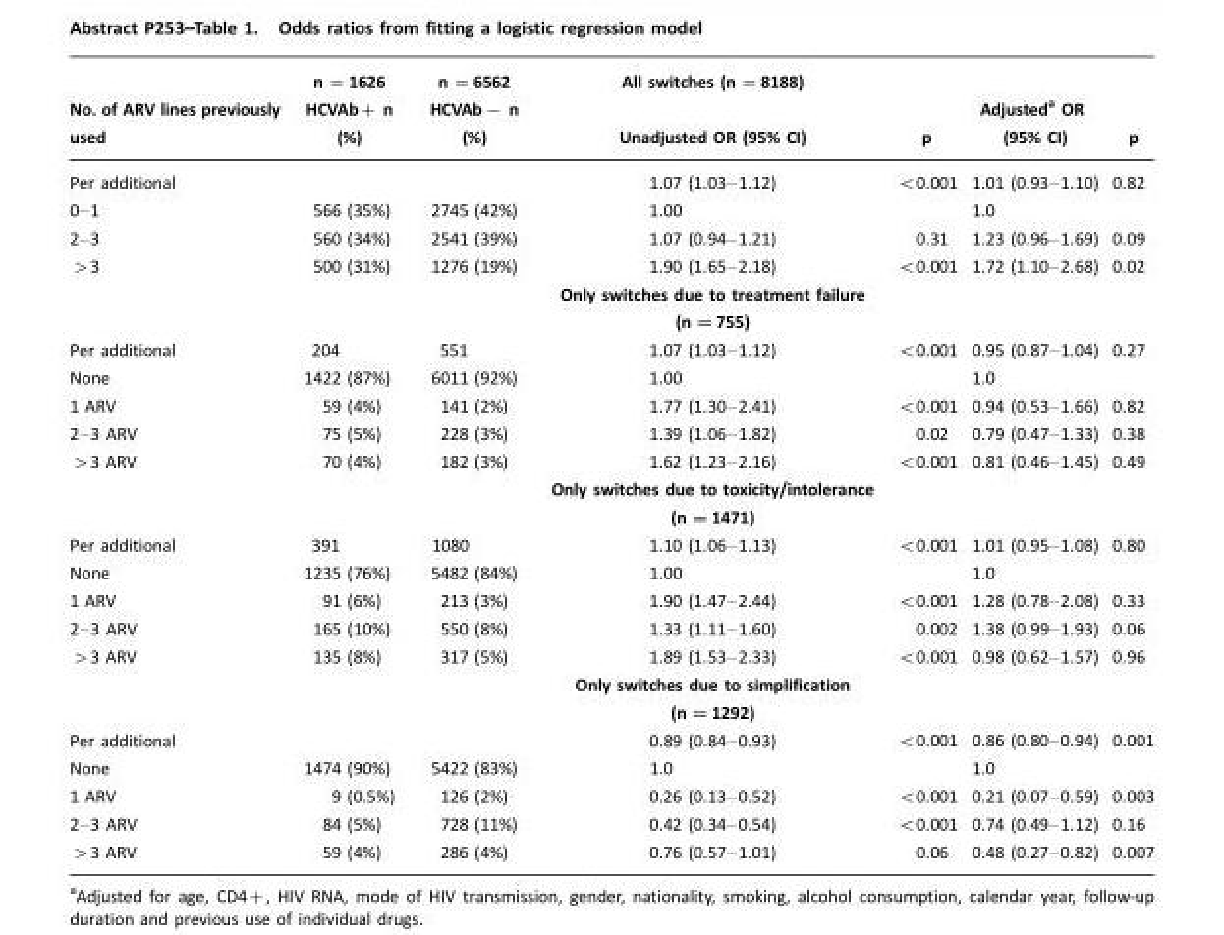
<table><thead><tr><td rowspan="2">No. of ARV lines previously used</td><td rowspan="2">n =1626 HCVAb+ n (%)</td><td rowspan="2">n =6562 HCVAb− n (%)</td><td rowspan="2">All switches (n =8188) Unadjusted OR (95% CI)</td><td rowspan="2">p</td><td rowspan="2">Adjusteda OR (95% CI)</td><td rowspan="2">p</td></tr><tr></tr></thead><tbody><tr><td>Per additional</td><td></td><td></td><td>1.07 (1.03–1.12)</td><td>&lt;0.001</td><td>1.01 (0.93–1.10)</td><td>0.82</td></tr><tr><td>0–1</td><td>566 (35%)</td><td>2745 (42%)</td><td>1.00</td><td></td><td>1.0</td><td></td></tr><tr><td>2–3</td><td>560 (34%)</td><td>2541 (39%)</td><td>1.07 (0.94–1.21)</td><td>0.31</td><td>1.23 (0.96–1.69)</td><td>0.09</td></tr><tr><td rowspan="2">&gt;3</td><td>500 (31%)</td><td>1276 (19%)</td><td>1.90 (1.65–2.18)</td><td>&lt;0.001</td><td>1.72 (1.10–2.68)</td><td>0.02</td></tr><tr><td></td><td></td><td>Only switches due to treatment failure (n =755)</td><td></td><td></td><td></td></tr><tr><td>Per additional</td><td>204</td><td>551</td><td>1.07 (1.03–1.12)</td><td>&lt;0.001</td><td>0.95 (0.87–1.04)</td><td>0.27</td></tr><tr><td>None</td><td>1422 (87%)</td><td>6011 (92%)</td><td>1.00</td><td></td><td>1.0</td><td></td></tr><tr><td>1 ARV</td><td>59 (4%)</td><td>141 (2%)</td><td>1.77 (1.30–2.41)</td><td>&lt;0.001</td><td>0.94 (0.53–1.66)</td><td>0.82</td></tr><tr><td>2–3 ARV</td><td>75 (5%)</td><td>228 (3%)</td><td>1.39 (1.06–1.82)</td><td>0.02</td><td>0.79 (0.47–1.33)</td><td>0.38</td></tr><tr><td rowspan="2">&gt;3 ARV</td><td>70 (4%)</td><td>182 (3%)</td><td>1.62 (1.23–2.16)</td><td>&lt;0.001</td><td>0.81 (0.46–1.45)</td><td>0.49</td></tr><tr><td></td><td></td><td>Only switches due to toxicity/intolerance (n =1471)</td><td></td><td></td><td></td></tr><tr><td>Per additional</td><td>391</td><td>1080</td><td>1.10 (1.06–1.13)</td><td>&lt;0.001</td><td>1.01 (0.95–1.08)</td><td>0.80</td></tr><tr><td>None</td><td>1235 (76%)</td><td>5482 (84%)</td><td>1.00</td><td></td><td>1.0</td><td></td></tr><tr><td>1 ARV</td><td>91 (6%)</td><td>213 (3%)</td><td>1.90 (1.47–2.44)</td><td>&lt;0.001</td><td>1.28 (0.78–2.08)</td><td>0.33</td></tr><tr><td>2–3 ARV</td><td>165 (10%)</td><td>550 (8%)</td><td>1.33 (1.11–1.60)</td><td>0.002</td><td>1.38 (0.99–1.93)</td><td>0.06</td></tr><tr><td rowspan="2">&gt;3 ARV</td><td>135 (8%)</td><td>317 (5%)</td><td>1.89 (1.53–2.33)</td><td>&lt;0.001</td><td>0.98 (0.62–1.57)</td><td>0.96</td></tr><tr><td></td><td></td><td>Only switches due to simplification (n =1292)</td><td></td><td></td><td></td></tr><tr><td>Per additional</td><td></td><td></td><td>0.89 (0.84–0.93)</td><td>&lt;0.001</td><td>0.86 (0.80–0.94)</td><td>0.001</td></tr><tr><td>None</td><td>1474 (90%)</td><td>5422 (83%)</td><td>1.0</td><td></td><td>1.0</td><td></td></tr><tr><td>1 ARV</td><td>9 (0.5%)</td><td>126 (2%)</td><td>0.26 (0.13–0.52)</td><td>&lt;0.001</td><td>0.21 (0.07–0.59)</td><td>0.003</td></tr><tr><td>2–3 ARV</td><td>84 (5%)</td><td>728 (11%)</td><td>0.42 (0.34–0.54)</td><td>&lt;0.001</td><td>0.74 (0.49–1.12)</td><td>0.16</td></tr><tr><td>&gt;3 ARV</td><td>59 (4%)</td><td>286 (4%)</td><td>0.76 (0.57–1.01)</td><td>0.06</td><td>0.48 (0.27–0.82)</td><td>0.007</td></tr></tbody></table>